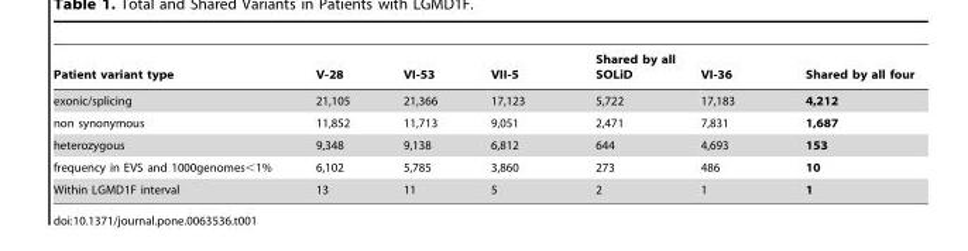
<table><thead><tr><td>Patient variant type</td><td>V-28</td><td>VI-53</td><td>VII-5</td><td>Shared by all SOLiD</td><td>VI-36</td><td>Shared by all four</td></tr></thead><tbody><tr><td>exonic/splicing</td><td>21,105</td><td>21,366</td><td>17,123</td><td>5,722</td><td>17,183</td><td>4,212</td></tr><tr><td>non synonymous</td><td>11,852</td><td>11,713</td><td>9,051</td><td>2,471</td><td>7,831</td><td>1,687</td></tr><tr><td>heterozygous</td><td>9,348</td><td>9,138</td><td>6,812</td><td>644</td><td>4,693</td><td>153</td></tr><tr><td>frequency in EVS and 1000genomes&lt;1%</td><td>6,102</td><td>5,785</td><td>3,860</td><td>273</td><td>486</td><td>10</td></tr><tr><td>Within LGMD1F interval</td><td>13</td><td>11</td><td>5</td><td>2</td><td>1</td><td>1</td></tr></tbody></table>